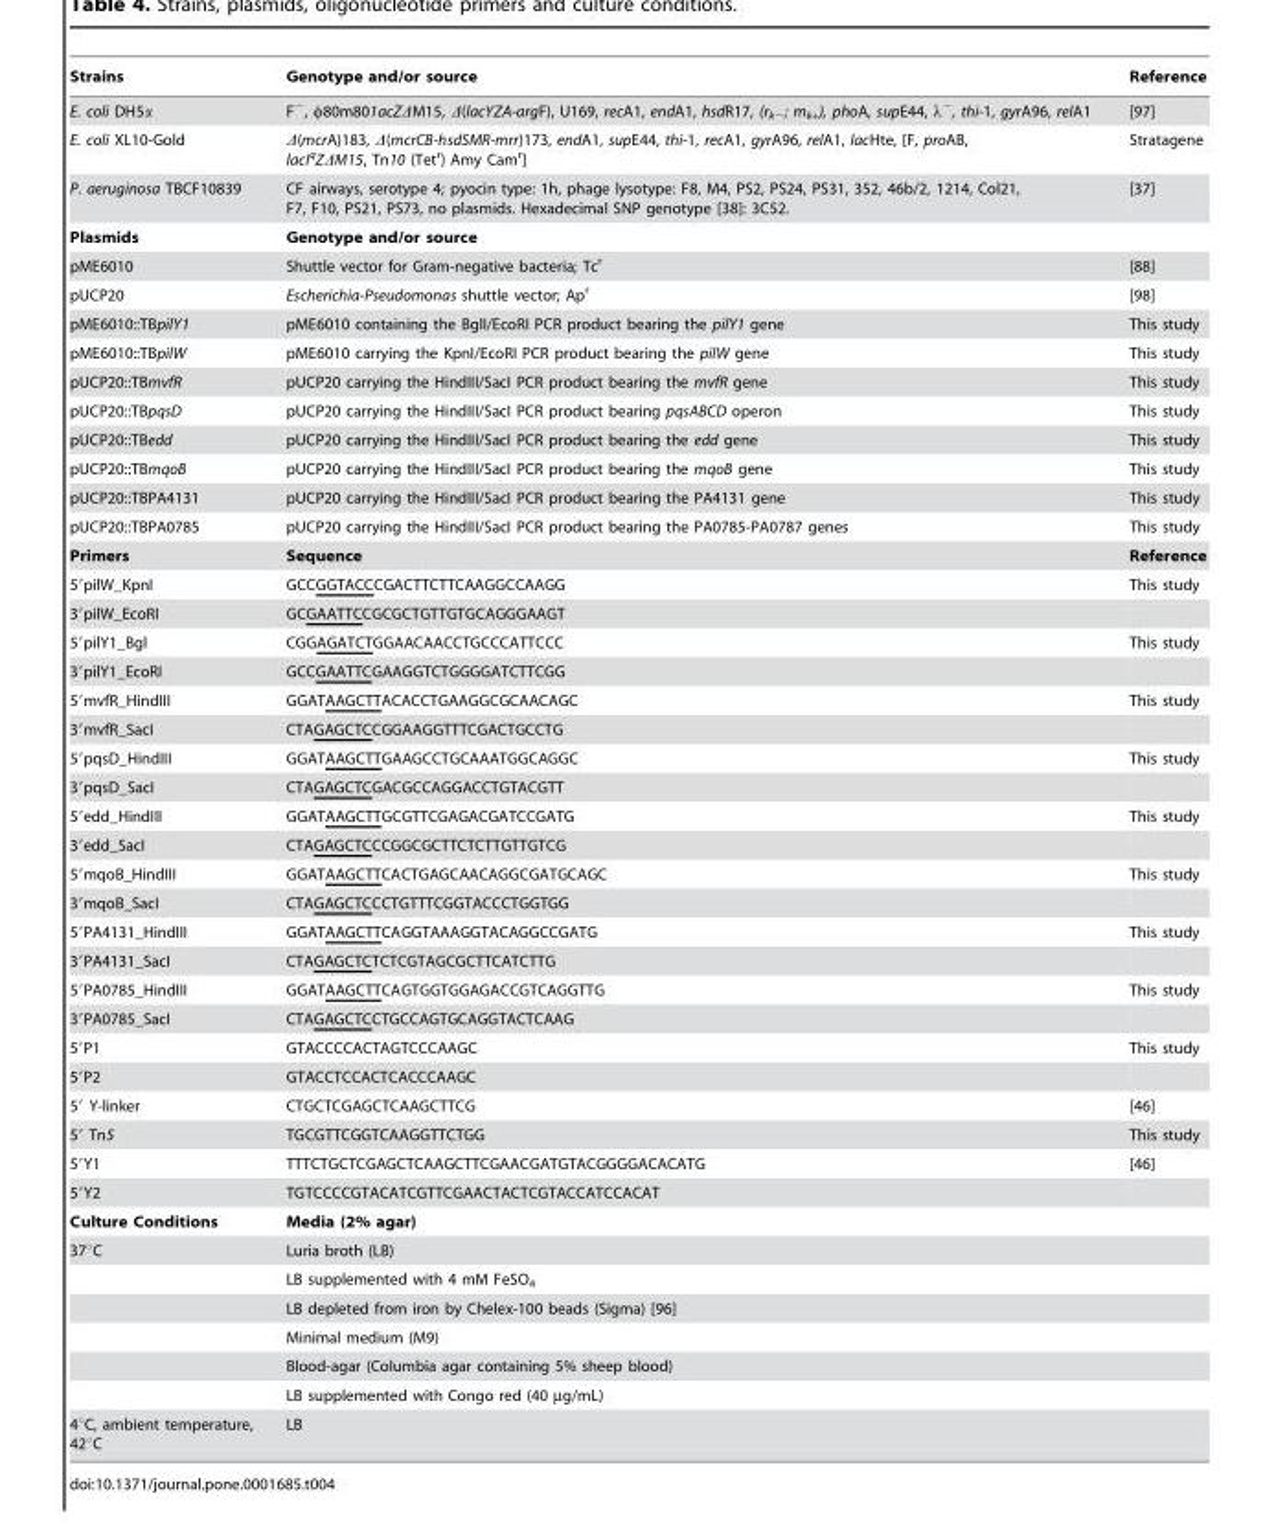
<table><thead><tr><td>Strains</td><td>Genotype and/or source</td><td>Reference</td></tr></thead><tbody><tr><td>E. coli DH5α</td><td>F<sup>−</sup>, φ80m801acZΔM15, Δ(lacYZA-argF), U169, recA1, endA1, hsdR17, (r<sub>k−</sub>; m<sub>k+</sub>), phoA, supE44, λ<sup>−</sup>, thi-1, gyrA96, relA1</td><td>[97]</td></tr><tr><td>E. coli XL10-Gold</td><td>D(mcrA)183, D(mcrCB-hsdSMR-mrr)173, endA1, supE44, thi-1, recA1, gyrA96, relA1, lacHte, [F, proAB, lacIqZDM15, Tn10 (Tetr) Amy Camr]</td><td>Stratagene</td></tr><tr><td>P. aeruginosa TBCF10839</td><td>CF airways, serotype 4; pyocin type: 1h, phage lysotype: F8, M4, PS2, PS24, PS31, 352, 46b/2, 1214, Col21, F7, F10, PS21, PS73, no plasmids. Hexadecimal SNP genotype [38]: 3C52.</td><td>[37]</td></tr><tr><td>Plasmids</td><td>Genotype and/or source</td><td></td></tr><tr><td>pME6010</td><td>Shuttle vector for Gram-negative bacteria; Tc<sup>r</sup></td><td>[88]</td></tr><tr><td>pUCP20</td><td>Escherichia-Pseudomonas shuttle vector; Ap<sup>r</sup></td><td>[98]</td></tr><tr><td>pME6010::TBpilY1</td><td>pME6010 containing the BglI/EcoRI PCR product bearing the pilY1 gene</td><td>This study</td></tr><tr><td>pME6010::TBpilW</td><td>pME6010 carrying the KpnI/EcoRI PCR product bearing the pilW gene</td><td>This study</td></tr><tr><td>pUCP20::TBmvfR</td><td>pUCP20 carrying the HindIII/SacI PCR product bearing the mvfR gene</td><td>This study</td></tr><tr><td>pUCP20::TBpqsD</td><td>pUCP20 carrying the HindIII/SacI PCR product bearing pqsABCD operon</td><td>This study</td></tr><tr><td>pUCP20::TBedd</td><td>pUCP20 carrying the HindIII/SacI PCR product bearing the edd gene</td><td>This study</td></tr><tr><td>pUCP20::TBmqoB</td><td>pUCP20 carrying the HindIII/SacI PCR product bearing the mqoB gene</td><td>This study</td></tr><tr><td>pUCP20::TBPA4131</td><td>pUCP20 carrying the HindIII/SacI PCR product bearing the PA4131 gene</td><td>This study</td></tr><tr><td>pUCP20::TBPA0785</td><td>pUCP20 carrying the HindIII/SacI PCR product bearing the PA0785-PA0787 genes</td><td>This study</td></tr><tr><td>Primers</td><td>Sequence</td><td>Reference</td></tr><tr><td>5′pilW_KpnI</td><td>GCCGGTACCCGACTTCTTCAAGGCCAAGG</td><td>This study</td></tr><tr><td>3′pilW_EcoRI</td><td>GCGAATTCCGCGCTGTTGTGCAGGGAAGT</td><td></td></tr><tr><td>5′pilY1_Bgl</td><td>CGGAGATCTGGAACAACCTGCCCATTCCC</td><td>This study</td></tr><tr><td>3′pilY1_EcoRI</td><td>GCCGAATTCGAAGGTCTGGGGATCTTCGG</td><td></td></tr><tr><td>5′mvfR_HindIII</td><td>GGATAAGCTTACACCTGAAGGCGCAACAGC</td><td>This study</td></tr><tr><td>3′mvfR_SacI</td><td>CTAGAGCTCCGGAAGGTTTCGACTGCCTG</td><td></td></tr><tr><td>5′pqsD_HindIII</td><td>GGATAAGCTTGAAGCCTGCAAATGGCAGGC</td><td>This study</td></tr><tr><td>3′pqsD_SacI</td><td>CTAGAGCTCGACGCCAGGACCTGTACGTT</td><td></td></tr><tr><td>5′edd_HindIII</td><td>GGATAAGCTTGCGTTCGAGACGATCCGATG</td><td>This study</td></tr><tr><td>3′edd_SacI</td><td>CTAGAGCTCCCGGCGCTTCTCTTGTTGTCG</td><td></td></tr><tr><td>5′mqoB_HindIII</td><td>GGATAAGCTTCACTGAGCAACAGGCGATGCAGC</td><td>This study</td></tr><tr><td>3′mqoB_SacI</td><td>CTAGAGCTCCCTGTTTCGGTACCCTGGTGG</td><td></td></tr><tr><td>5′PA4131_HindIII</td><td>GGATAAGCTTCAGGTAAAGGTACAGGCCGATG</td><td>This study</td></tr><tr><td>3′PA4131_SacI</td><td>CTAGAGCTCTCTCGTAGCGCTTCATCTTG</td><td></td></tr><tr><td>5′PA0785_HindIII</td><td>GGATAAGCTTCAGTGGTGGAGACCGTCAGGTTG</td><td>This study</td></tr><tr><td>3′PA0785_SacI</td><td>CTAGAGCTCCTGCCAGTGCAGGTACTCAAG</td><td></td></tr><tr><td>5′P1</td><td>GTACCCCACTAGTCCCAAGC</td><td>This study</td></tr><tr><td>5′P2</td><td>GTACCTCCACTCACCCAAGC</td><td></td></tr><tr><td>5′ Y-linker</td><td>CTGCTCGAGCTCAAGCTTCG</td><td>[46]</td></tr><tr><td>5′ Tn5</td><td>TGCGTTCGGTCAAGGTTCTGG</td><td>This study</td></tr><tr><td>5′Y1</td><td>TTTCTGCTCGAGCTCAAGCTTCGAACGATGTACGGGGACACATG</td><td>[46]</td></tr><tr><td>5′Y2</td><td>TGTCCCCGTACATCGTTCGAACTACTCGTACCATCCACAT</td><td></td></tr><tr><td>Culture Conditions</td><td colspan="2">Media (2% agar)</td></tr><tr><td rowspan="6">37°C</td><td colspan="2">Luria broth (LB)</td></tr><tr><td colspan="2">LB supplemented with 4 mM FeSO<sub>4</sub></td></tr><tr><td colspan="2">LB depleted from iron by Chelex-100 beads (Sigma) [96]</td></tr><tr><td colspan="2">Minimal medium (M9)</td></tr><tr><td colspan="2">Blood-agar (Columbia agar containing 5% sheep blood)</td></tr><tr><td colspan="2">LB supplemented with Congo red (40 µg/mL)</td></tr><tr><td>4°C, ambient temperature, 42°C</td><td colspan="2">LB</td></tr></tbody></table>